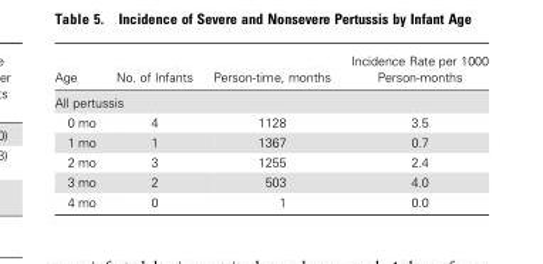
<table><thead><tr><td>Age</td><td>No. of Infants</td><td>Person-time, months</td><td>Incidence Rate per 1000 Person-months</td></tr></thead><tbody><tr><td colspan="4">All pertussis</td></tr><tr><td>0 mo</td><td>4</td><td>1128</td><td>3.5</td></tr><tr><td>1 mo</td><td>1</td><td>1367</td><td>0.7</td></tr><tr><td>2 mo</td><td>3</td><td>1255</td><td>2.4</td></tr><tr><td>3 mo</td><td>2</td><td>503</td><td>4.0</td></tr><tr><td>4 mo</td><td>0</td><td>1</td><td>0.0</td></tr></tbody></table>